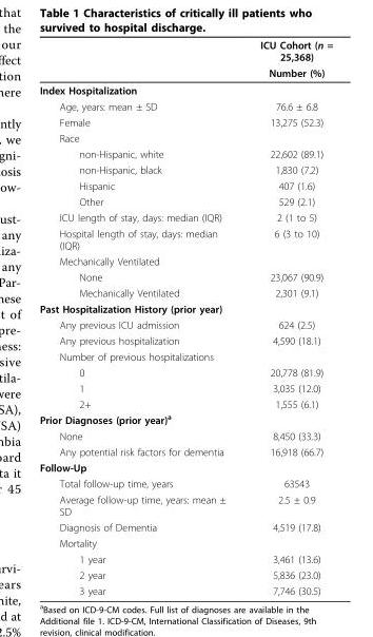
<table><thead><tr><td rowspan="2"></td><td rowspan="2">ICU Cohort (n = 25,368) Number (%)</td></tr><tr></tr></thead><tbody><tr><td colspan="2">Index Hospitalization</td></tr><tr><td>Age, years: mean ± SD</td><td>76.6 ± 6.8</td></tr><tr><td>Female</td><td>13,275 (52.3)</td></tr><tr><td colspan="2">Race</td></tr><tr><td>non-Hispanic, white</td><td>22,602 (89.1)</td></tr><tr><td>non-Hispanic, black</td><td>1,830 (7.2)</td></tr><tr><td>Hispanic</td><td>407 (1.6)</td></tr><tr><td>Other</td><td>529 (2.1)</td></tr><tr><td>ICU length of stay, days: median (IQR)</td><td>2 (1 to 5)</td></tr><tr><td>Hospital length of stay, days: median (IQR)</td><td>6 (3 to 10)</td></tr><tr><td colspan="2">Mechanically Ventilated</td></tr><tr><td>None</td><td>23,067 (90.9)</td></tr><tr><td>Mechanically Ventilated</td><td>2,301 (9.1)</td></tr><tr><td colspan="2">Past Hospitalization History (prior year)</td></tr><tr><td>Any previous ICU admission</td><td>624 (2.5)</td></tr><tr><td>Any previous hospitalization</td><td>4,590 (18.1)</td></tr><tr><td colspan="2">Number of previous hospitalizations</td></tr><tr><td>0</td><td>20,778 (81.9)</td></tr><tr><td>1</td><td>3,035 (12.0)</td></tr><tr><td>2+</td><td>1,555 (6.1)</td></tr><tr><td colspan="2">Prior Diagnoses (prior year)<sup>a</sup></td></tr><tr><td>None</td><td>8,450 (33.3)</td></tr><tr><td>Any potential risk factors for dementia</td><td>16,918 (66.7)</td></tr><tr><td colspan="2">Follow-Up</td></tr><tr><td>Total follow-up time, years</td><td>63543</td></tr><tr><td>Average follow-up time, years: mean ± SD</td><td>2.5 ± 0.9</td></tr><tr><td>Diagnosis of Dementia</td><td>4,519 (17.8)</td></tr><tr><td colspan="2">Mortality</td></tr><tr><td>1 year</td><td>3,461 (13.6)</td></tr><tr><td>2 year</td><td>5,836 (23.0)</td></tr><tr><td>3 year</td><td>7,746 (30.5)</td></tr></tbody></table>